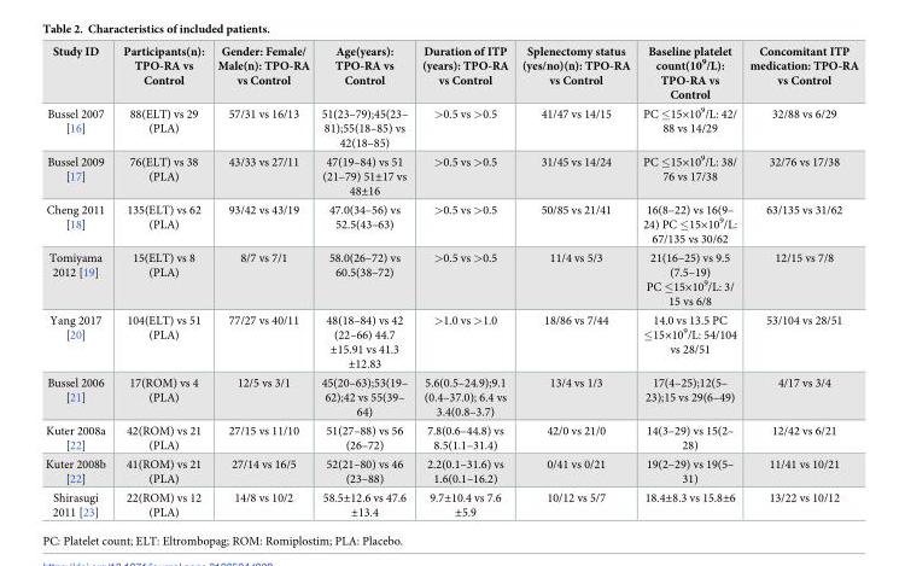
<table><thead><tr><td>Study ID</td><td>Participants(n): TPO-RA vs Control</td><td>Gender: Female/ Male(n): TPO-RA vs Control</td><td>Age(years): TPO-RA vs Control</td><td>Duration of ITP (years): TPO-RA vs Control</td><td>Splenectomy status (yes/no)(n): TPO-RA vs Control</td><td>Baseline platelet count(10<sup>9</sup>/L): TPO-RA vs Control</td><td>Concomitant ITP medication: TPO-RA vs Control</td></tr></thead><tbody><tr><td>Bussel 2007 [16]</td><td>88(ELT) vs 29 (PLA)</td><td>57/31 vs 16/13</td><td>51(23–79);45(23– 81);55(18–85) vs 42(18–85)</td><td>&gt;0.5 vs &gt;0.5</td><td>41/47 vs 14/15</td><td>PC ≤15×10<sup>9</sup>/L: 42/ 88 vs 14/29</td><td>32/88 vs 6/29</td></tr><tr><td>Bussel 2009 [17]</td><td>76(ELT) vs 38 (PLA)</td><td>43/33 vs 27/11</td><td>47(19–84) vs 51 (21–79) 51±17 vs 48±16</td><td>&gt;0.5 vs &gt;0.5</td><td>31/45 vs 14/24</td><td>PC ≤15×10<sup>9</sup>/L: 38/ 76 vs 17/38</td><td>32/76 vs 17/38</td></tr><tr><td>Cheng 2011 [18]</td><td>135(ELT) vs 62 (PLA)</td><td>93/42 vs 43/19</td><td>47.0(34–56) vs 52.5(43–63)</td><td>&gt;0.5 vs &gt;0.5</td><td>50/85 vs 21/41</td><td>16(8–22) vs 16(9– 24) PC ≤15×10<sup>9</sup>/L: 67/135 vs 30/62</td><td>63/135 vs 31/62</td></tr><tr><td>Tomiyama 2012 [19]</td><td>15(ELT) vs 8 (PLA)</td><td>8/7 vs 7/1</td><td>58.0(26–72) vs 60.5(38–72)</td><td>&gt;0.5 vs &gt;0.5</td><td>11/4 vs 5/3</td><td>21(16–25) vs 9.5 (7.5–19) PC ≤15×10<sup>9</sup>/L: 3/ 15 vs 6/8</td><td>12/15 vs 7/8</td></tr><tr><td>Yang 2017 [20]</td><td>104(ELT) vs 51 (PLA)</td><td>77/27 vs 40/11</td><td>48(18–84) vs 42 (22–66) 44.7 ±15.91 vs 41.3 ±12.83</td><td>&gt;1.0 vs &gt;1.0</td><td>18/86 vs 7/44</td><td>14.0 vs 13.5 PC ≤15×10<sup>9</sup>/L: 54/104 vs 28/51</td><td>53/104 vs 28/51</td></tr><tr><td>Bussel 2006 [21]</td><td>17(ROM) vs 4 (PLA)</td><td>12/5 vs 3/1</td><td>45(20–63);53(19– 62);42 vs 55(39– 64)</td><td>5.6(0.5–24.9);9.1 (0.4–37.0); 6.4 vs 3.4(0.8–3.7)</td><td>13/4 vs 1/3</td><td>17(4–25);12(5– 23);15 vs 29(6–49)</td><td>4/17 vs 3/4</td></tr><tr><td>Kuter 2008a [22]</td><td>42(ROM) vs 21 (PLA)</td><td>27/15 vs 11/10</td><td>51(27–88) vs 56 (26–72)</td><td>7.8(0.6–44.8) vs 8.5(1.1–31.4)</td><td>42/0 vs 21/0</td><td>14(3–29) vs 15(2– 28)</td><td>12/42 vs 6/21</td></tr><tr><td>Kuter 2008b [22]</td><td>41(ROM) vs 21 (PLA)</td><td>27/14 vs 16/5</td><td>52(21–80) vs 46 (23–88)</td><td>2.2(0.1–31.6) vs 1.6(0.1–16.2)</td><td>0/41 vs 0/21</td><td>19(2–29) vs 19(5– 31)</td><td>11/41 vs 10/21</td></tr><tr><td>Shirasugi 2011 [23]</td><td>22(ROM) vs 12 (PLA)</td><td>14/8 vs 10/2</td><td>58.5±12.6 vs 47.6 ±13.4</td><td>9.7±10.4 vs 7.6 ±5.9</td><td>10/12 vs 5/7</td><td>18.4±8.3 vs 15.8±6</td><td>13/22 vs 10/12</td></tr></tbody></table>